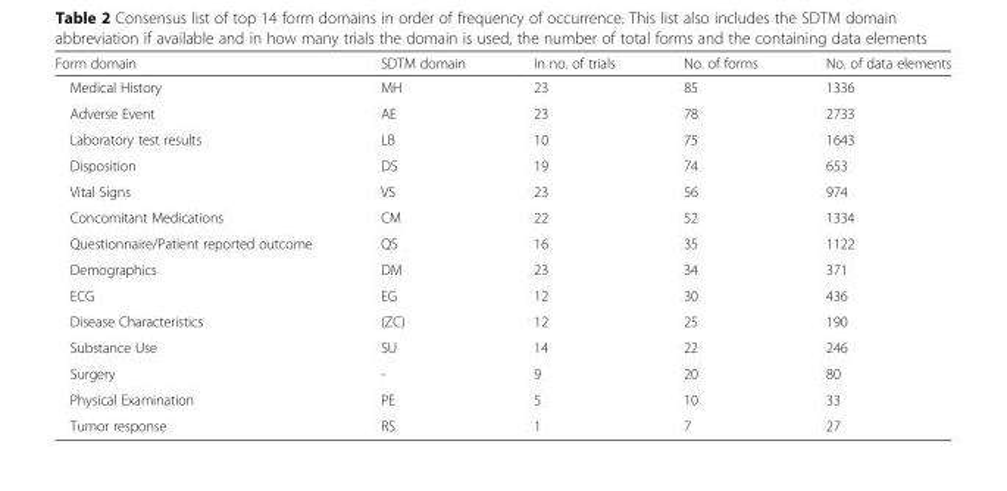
<table><thead><tr><td>Form domain</td><td>SDTM domain</td><td>In no. of trials</td><td>No. of forms</td><td>No. of data elements</td></tr></thead><tbody><tr><td>Medical History</td><td>MH</td><td>23</td><td>85</td><td>1336</td></tr><tr><td>Adverse Event</td><td>AE</td><td>23</td><td>78</td><td>2733</td></tr><tr><td>Laboratory test results</td><td>LB</td><td>10</td><td>75</td><td>1643</td></tr><tr><td>Disposition</td><td>DS</td><td>19</td><td>74</td><td>653</td></tr><tr><td>Vital Signs</td><td>VS</td><td>23</td><td>56</td><td>974</td></tr><tr><td>Concomitant Medications</td><td>CM</td><td>22</td><td>52</td><td>1334</td></tr><tr><td>Questionnaire/Patient reported outcome</td><td>QS</td><td>16</td><td>35</td><td>1122</td></tr><tr><td>Demographics</td><td>DM</td><td>23</td><td>34</td><td>371</td></tr><tr><td>ECG</td><td>EG</td><td>12</td><td>30</td><td>436</td></tr><tr><td>Disease Characteristics</td><td>(ZC)</td><td>12</td><td>25</td><td>190</td></tr><tr><td>Substance Use</td><td>SU</td><td>14</td><td>22</td><td>246</td></tr><tr><td>Surgery</td><td>-</td><td>9</td><td>20</td><td>80</td></tr><tr><td>Physical Examination</td><td>PE</td><td>5</td><td>10</td><td>33</td></tr><tr><td>Tumor response</td><td>RS</td><td>1</td><td>7</td><td>27</td></tr></tbody></table>